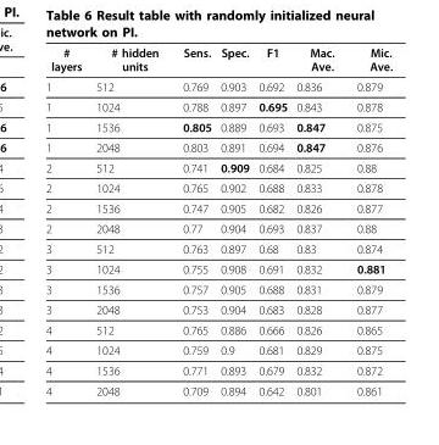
<table><thead><tr><td># layers</td><td># hidden units</td><td>Sens.</td><td>Spec.</td><td>F1</td><td>Mac. Ave.</td><td>Mic. Ave.</td></tr></thead><tbody><tr><td>1</td><td>512</td><td>0.769</td><td>0.903</td><td>0.692</td><td>0.836</td><td>0.879</td></tr><tr><td>1</td><td>1024</td><td>0.788</td><td>0.897</td><td>0.695</td><td>0.843</td><td>0.878</td></tr><tr><td>1</td><td>1536</td><td>0.805</td><td>0.889</td><td>0.693</td><td>0.847</td><td>0.875</td></tr><tr><td>1</td><td>2048</td><td>0.803</td><td>0.891</td><td>0.694</td><td>0.847</td><td>0.876</td></tr><tr><td>2</td><td>512</td><td>0.741</td><td>0.909</td><td>0.684</td><td>0.825</td><td>0.88</td></tr><tr><td>2</td><td>1024</td><td>0.765</td><td>0.902</td><td>0.688</td><td>0.833</td><td>0.878</td></tr><tr><td>2</td><td>1536</td><td>0.747</td><td>0.905</td><td>0.682</td><td>0.826</td><td>0.877</td></tr><tr><td>2</td><td>2048</td><td>0.77</td><td>0.904</td><td>0.693</td><td>0.837</td><td>0.88</td></tr><tr><td>3</td><td>512</td><td>0.763</td><td>0.897</td><td>0.68</td><td>0.83</td><td>0.874</td></tr><tr><td>3</td><td>1024</td><td>0.755</td><td>0.908</td><td>0.691</td><td>0.832</td><td>0.881</td></tr><tr><td>3</td><td>1536</td><td>0.757</td><td>0.905</td><td>0.688</td><td>0.831</td><td>0.879</td></tr><tr><td>3</td><td>2048</td><td>0.753</td><td>0.904</td><td>0.683</td><td>0.828</td><td>0.877</td></tr><tr><td>4</td><td>512</td><td>0.765</td><td>0.886</td><td>0.666</td><td>0.826</td><td>0.865</td></tr><tr><td>4</td><td>1024</td><td>0.759</td><td>0.9</td><td>0.681</td><td>0.829</td><td>0.875</td></tr><tr><td>4</td><td>1536</td><td>0.771</td><td>0.893</td><td>0.679</td><td>0.832</td><td>0.872</td></tr><tr><td>4</td><td>2048</td><td>0.709</td><td>0.894</td><td>0.642</td><td>0.801</td><td>0.861</td></tr></tbody></table>